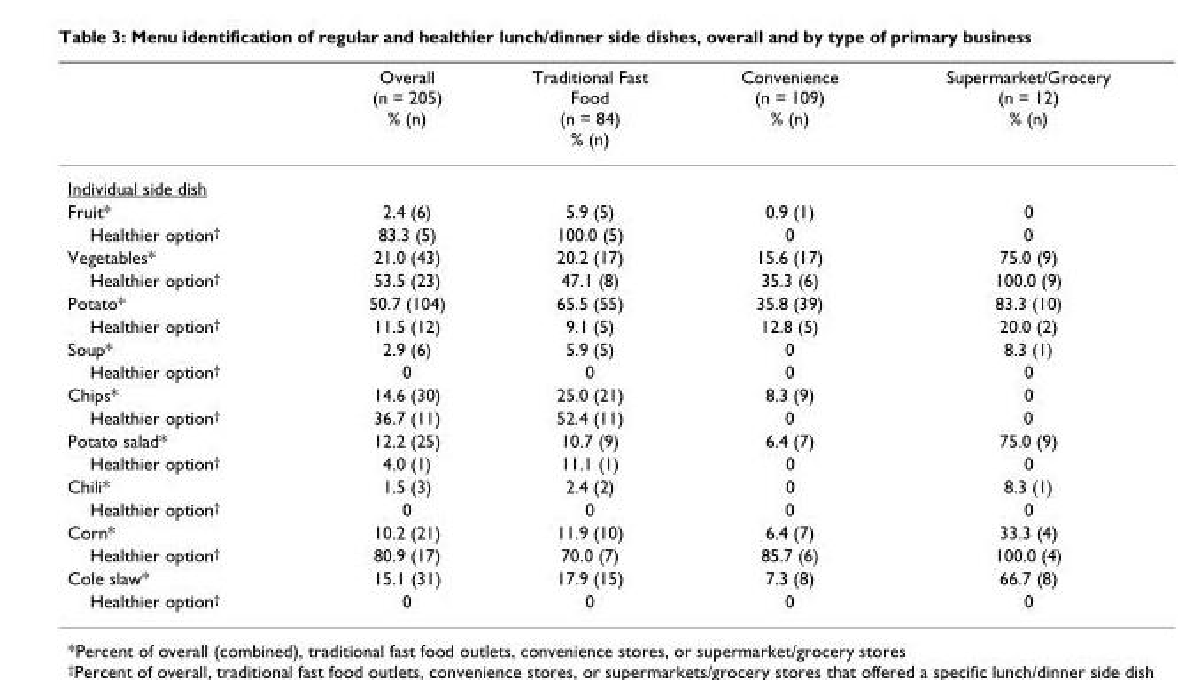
<table><thead><tr><td></td><td>Overall (n = 205) % (n)</td><td>Traditional Fast Food (n = 84) % (n)</td><td>Convenience (n = 109) % (n)</td><td>Supermarket/Grocery (n = 12) % (n)</td></tr></thead><tbody><tr><td colspan="5">Individual side dish</td></tr><tr><td>Fruit*</td><td>2.4 (6)</td><td>5.9 (5)</td><td>0.9 (1)</td><td>0</td></tr><tr><td>Healthier option<sup>†</sup></td><td>83.3 (5)</td><td>100.0 (5)</td><td>0</td><td>0</td></tr><tr><td>Vegetables*</td><td>21.0 (43)</td><td>20.2 (17)</td><td>15.6 (17)</td><td>75.0 (9)</td></tr><tr><td>Healthier option<sup>†</sup></td><td>53.5 (23)</td><td>47.1 (8)</td><td>35.3 (6)</td><td>100.0 (9)</td></tr><tr><td>Potato*</td><td>50.7 (104)</td><td>65.5 (55)</td><td>35.8 (39)</td><td>83.3 (10)</td></tr><tr><td>Healthier option<sup>†</sup></td><td>11.5 (12)</td><td>9.1 (5)</td><td>12.8 (5)</td><td>20.0 (2)</td></tr><tr><td>Soup*</td><td>2.9 (6)</td><td>5.9 (5)</td><td>0</td><td>8.3 (1)</td></tr><tr><td>Healthier option<sup>†</sup></td><td>0</td><td>0</td><td>0</td><td>0</td></tr><tr><td>Chips*</td><td>14.6 (30)</td><td>25.0 (21)</td><td>8.3 (9)</td><td>0</td></tr><tr><td>Healthier option<sup>†</sup></td><td>36.7 (11)</td><td>52.4 (11)</td><td>0</td><td>0</td></tr><tr><td>Potato salad*</td><td>12.2 (25)</td><td>10.7 (9)</td><td>6.4 (7)</td><td>75.0 (9)</td></tr><tr><td>Healthier option<sup>†</sup></td><td>4.0 (1)</td><td>11.1 (1)</td><td>0</td><td>0</td></tr><tr><td>Chili*</td><td>1.5 (3)</td><td>2.4 (2)</td><td>0</td><td>8.3 (1)</td></tr><tr><td>Healthier option<sup>†</sup></td><td>0</td><td>0</td><td>0</td><td>0</td></tr><tr><td>Corn*</td><td>10.2 (21)</td><td>11.9 (10)</td><td>6.4 (7)</td><td>33.3 (4)</td></tr><tr><td>Healthier option<sup>†</sup></td><td>80.9 (17)</td><td>70.0 (7)</td><td>85.7 (6)</td><td>100.0 (4)</td></tr><tr><td>Cole slaw*</td><td>15.1 (31)</td><td>17.9 (15)</td><td>7.3 (8)</td><td>66.7 (8)</td></tr><tr><td>Healthier option<sup>†</sup></td><td>0</td><td>0</td><td>0</td><td>0</td></tr></tbody></table>